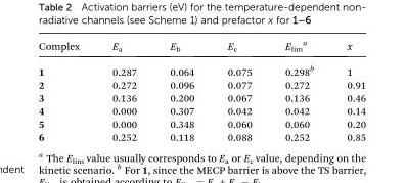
<table><thead><tr><td>Complex</td><td>E<sub>a</sub></td><td>E<sub>b</sub></td><td>E<sub>c</sub></td><td>E<sub>lim</sub> <sup>a</sup></td><td>x</td></tr></thead><tbody><tr><td>1</td><td>0.287</td><td>0.064</td><td>0.075</td><td>0.298<sup>b</sup></td><td>1</td></tr><tr><td>2</td><td>0.272</td><td>0.096</td><td>0.077</td><td>0.272</td><td>0.91</td></tr><tr><td>3</td><td>0.136</td><td>0.200</td><td>0.067</td><td>0.136</td><td>0.46</td></tr><tr><td>4</td><td>0.000</td><td>0.307</td><td>0.042</td><td>0.042</td><td>0.14</td></tr><tr><td>5</td><td>0.000</td><td>0.348</td><td>0.060</td><td>0.060</td><td>0.20</td></tr><tr><td>6</td><td>0.252</td><td>0.118</td><td>0.088</td><td>0.252</td><td>0.85</td></tr></tbody></table>